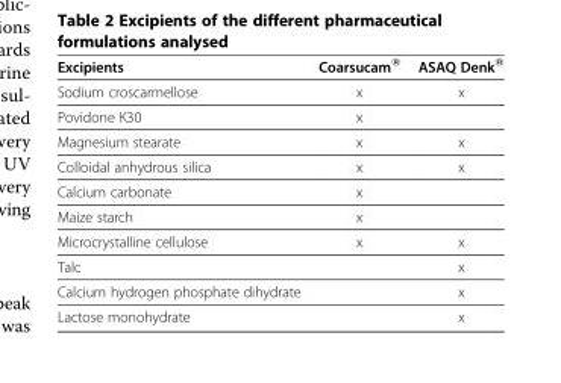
<table><thead><tr><td>Excipients</td><td>Coarsucam®</td><td>ASAQ Denk®</td></tr></thead><tbody><tr><td>Sodium croscarmellose</td><td>x</td><td>x</td></tr><tr><td>Povidone K30</td><td>x</td><td></td></tr><tr><td>Magnesium stearate</td><td>x</td><td>x</td></tr><tr><td>Colloidal anhydrous silica</td><td>x</td><td>x</td></tr><tr><td>Calcium carbonate</td><td>x</td><td></td></tr><tr><td>Maize starch</td><td>x</td><td></td></tr><tr><td>Microcrystalline cellulose</td><td>x</td><td>x</td></tr><tr><td>Talc</td><td></td><td>x</td></tr><tr><td>Calcium hydrogen phosphate dihydrate</td><td></td><td>x</td></tr><tr><td>Lactose monohydrate</td><td></td><td>x</td></tr></tbody></table>